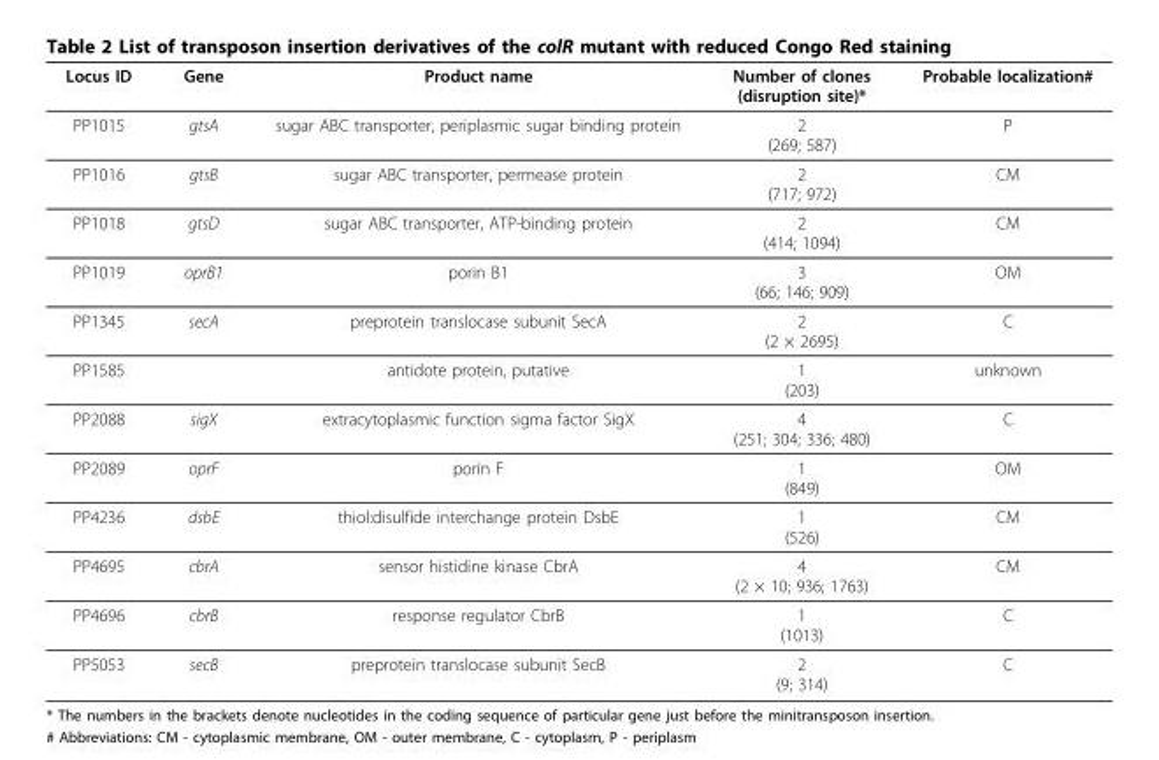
<table><thead><tr><td>Locus ID</td><td>Gene</td><td>Product name</td><td>Number of clones (disruption site)*</td><td>Probable localization#</td></tr></thead><tbody><tr><td>PP1015</td><td>gtsA</td><td>sugar ABC transporter, periplasmic sugar binding protein</td><td>2 (269; 587)</td><td>P</td></tr><tr><td>PP1016</td><td>gtsB</td><td>sugar ABC transporter, permease protein</td><td>2 (717; 972)</td><td>CM</td></tr><tr><td>PP1018</td><td>gtsD</td><td>sugar ABC transporter, ATP-binding protein</td><td>2 (414; 1094)</td><td>CM</td></tr><tr><td>PP1019</td><td>oprB1</td><td>porin B1</td><td>3 (66; 146; 909)</td><td>OM</td></tr><tr><td>PP1345</td><td>secA</td><td>preprotein translocase subunit SecA</td><td>2 (2 × 2695)</td><td>C</td></tr><tr><td>PP1585</td><td></td><td>antidote protein, putative</td><td>1 (203)</td><td>unknown</td></tr><tr><td>PP2088</td><td>sigX</td><td>extracytoplasmic function sigma factor SigX</td><td>4 (251; 304; 336; 480)</td><td>C</td></tr><tr><td>PP2089</td><td>oprF</td><td>porin F</td><td>1 (849)</td><td>OM</td></tr><tr><td>PP4236</td><td>dsbE</td><td>thiol:disulfide interchange protein DsbE</td><td>1 (526)</td><td>CM</td></tr><tr><td>PP4695</td><td>cbrA</td><td>sensor histidine kinase CbrA</td><td>4 (2 × 10; 936; 1763)</td><td>CM</td></tr><tr><td>PP4696</td><td>cbrB</td><td>response regulator CbrB</td><td>1 (1013)</td><td>C</td></tr><tr><td>PP5053</td><td>secB</td><td>preprotein translocase subunit SecB</td><td>2 (9; 314)</td><td>C</td></tr></tbody></table>